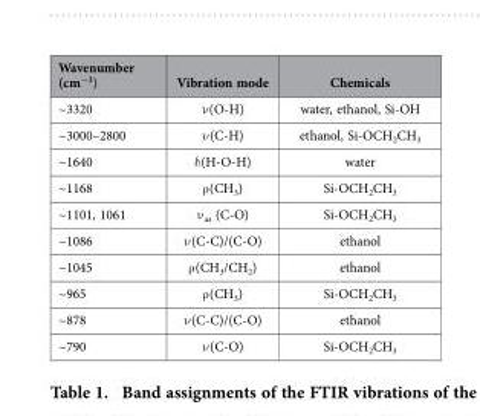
<table><thead><tr><td>Wavenumber (cm<sup>−1</sup>)</td><td>Vibration mode</td><td>Chemicals</td></tr></thead><tbody><tr><td>~3320</td><td>ν (O-H)</td><td>water, ethanol, Si-OH</td></tr><tr><td>~3000–2800</td><td>ν (C-H)</td><td>ethanol, Si-OCH<sub>2</sub>CH<sub>3</sub></td></tr><tr><td>~1640</td><td>δ (H-O-H)</td><td>water</td></tr><tr><td>~1168</td><td>ρ (CH<sub>3</sub>)</td><td>Si-OCH<sub>2</sub>CH<sub>3</sub></td></tr><tr><td>~1101, 1061</td><td>ν <sub>as</sub> (C-O)</td><td>Si-OCH<sub>2</sub>CH<sub>3</sub></td></tr><tr><td>~1086</td><td>ν (C-C)/(C-O)</td><td>ethanol</td></tr><tr><td>~1045</td><td>ρ (CH<sub>3</sub>/CH<sub>2</sub>)</td><td>ethanol</td></tr><tr><td>~965</td><td>ρ (CH<sub>3</sub>)</td><td>Si-OCH<sub>2</sub>CH<sub>3</sub></td></tr><tr><td>~878</td><td>ν (C-C)/(C-O)</td><td>ethanol</td></tr><tr><td>~790</td><td>ν (C-O)</td><td>Si-OCH<sub>2</sub>CH<sub>3</sub></td></tr></tbody></table>